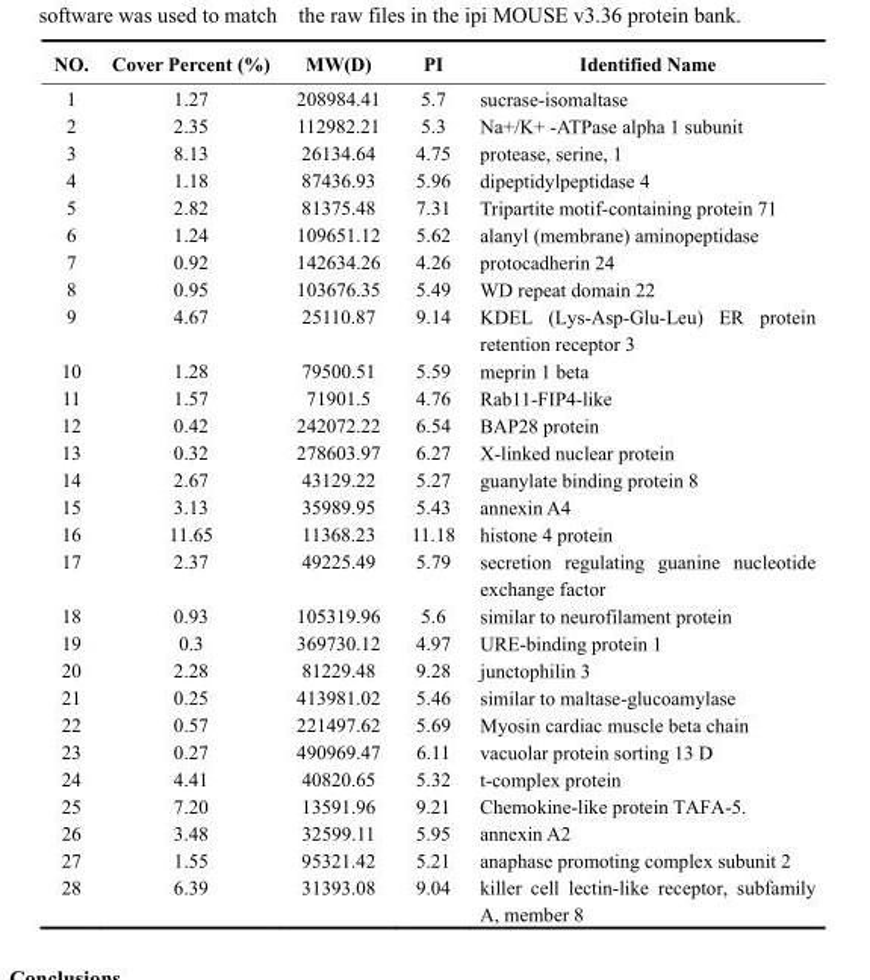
<table><thead><tr><td>NO.</td><td>Cover Percent (%)</td><td>MW(D)</td><td>PI</td><td>Identified Name</td></tr></thead><tbody><tr><td>1</td><td>1.27</td><td>208984.41</td><td>5.7</td><td>sucrase-isomaltase</td></tr><tr><td>2</td><td>2.35</td><td>112982.21</td><td>5.3</td><td>Na+/K+ -ATPase alpha 1 subunit</td></tr><tr><td>3</td><td>8.13</td><td>26134.64</td><td>4.75</td><td>protease, serine, 1</td></tr><tr><td>4</td><td>1.18</td><td>87436.93</td><td>5.96</td><td>dipeptidylpeptidase 4</td></tr><tr><td>5</td><td>2.82</td><td>81375.48</td><td>7.31</td><td>Tripartite motif-containing protein 71</td></tr><tr><td>6</td><td>1.24</td><td>109651.12</td><td>5.62</td><td>alanyl (membrane) aminopeptidase</td></tr><tr><td>7</td><td>0.92</td><td>142634.26</td><td>4.26</td><td>protocadherin 24</td></tr><tr><td>8</td><td>0.95</td><td>103676.35</td><td>5.49</td><td>WD repeat domain 22</td></tr><tr><td>9</td><td>4.67</td><td>25110.87</td><td>9.14</td><td>KDEL (Lys-Asp-Glu-Leu) ER protein retention receptor 3</td></tr><tr><td>10</td><td>1.28</td><td>79500.51</td><td>5.59</td><td>meprin 1 beta</td></tr><tr><td>11</td><td>1.57</td><td>71901.5</td><td>4.76</td><td>Rab11-FIP4-like</td></tr><tr><td>12</td><td>0.42</td><td>242072.22</td><td>6.54</td><td>BAP28 protein</td></tr><tr><td>13</td><td>0.32</td><td>278603.97</td><td>6.27</td><td>X-linked nuclear protein</td></tr><tr><td>14</td><td>2.67</td><td>43129.22</td><td>5.27</td><td>guanylate binding protein 8</td></tr><tr><td>15</td><td>3.13</td><td>35989.95</td><td>5.43</td><td>annexin A4</td></tr><tr><td>16</td><td>11.65</td><td>11368.23</td><td>11.18</td><td>histone 4 protein</td></tr><tr><td>17</td><td>2.37</td><td>49225.49</td><td>5.79</td><td>secretion regulating guanine nucleotide exchange factor</td></tr><tr><td>18</td><td>0.93</td><td>105319.96</td><td>5.6</td><td>similar to neurofilament protein</td></tr><tr><td>19</td><td>0.3</td><td>369730.12</td><td>4.97</td><td>URE-binding protein 1</td></tr><tr><td>20</td><td>2.28</td><td>81229.48</td><td>9.28</td><td>junctophilin 3</td></tr><tr><td>21</td><td>0.25</td><td>413981.02</td><td>5.46</td><td>similar to maltase-glucoamylase</td></tr><tr><td>22</td><td>0.57</td><td>221497.62</td><td>5.69</td><td>Myosin cardiac muscle beta chain</td></tr><tr><td>23</td><td>0.27</td><td>490969.47</td><td>6.11</td><td>vacuolar protein sorting 13 D</td></tr><tr><td>24</td><td>4.41</td><td>40820.65</td><td>5.32</td><td>t-complex protein</td></tr><tr><td>25</td><td>7.20</td><td>13591.96</td><td>9.21</td><td>Chemokine-like protein TAFA-5.</td></tr><tr><td>26</td><td>3.48</td><td>32599.11</td><td>5.95</td><td>annexin A2</td></tr><tr><td>27</td><td>1.55</td><td>95321.42</td><td>5.21</td><td>anaphase promoting complex subunit 2</td></tr><tr><td>28</td><td>6.39</td><td>31393.08</td><td>9.04</td><td>killer cell lectin-like receptor, subfamily A, member 8</td></tr></tbody></table>